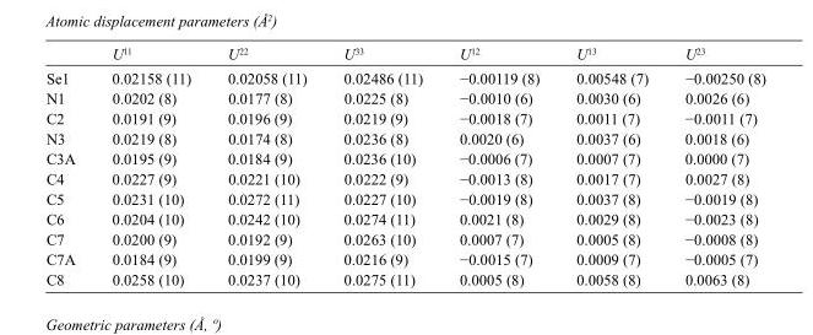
<table><thead><tr><td></td><td>U<sup>11</sup></td><td>U<sup>22</sup></td><td>U<sup>33</sup></td><td>U<sup>12</sup></td><td>U<sup>13</sup></td><td>U<sup>23</sup></td></tr></thead><tbody><tr><td>Se1</td><td>0.02158 (11)</td><td>0.02058 (11)</td><td>0.02486 (11)</td><td>−0.00119 (8)</td><td>0.00548 (7)</td><td>−0.00250 (8)</td></tr><tr><td>N1</td><td>0.0202 (8)</td><td>0.0177 (8)</td><td>0.0225 (8)</td><td>−0.0010 (6)</td><td>0.0030 (6)</td><td>0.0026 (6)</td></tr><tr><td>C2</td><td>0.0191 (9)</td><td>0.0196 (9)</td><td>0.0219 (9)</td><td>−0.0018 (7)</td><td>0.0011 (7)</td><td>−0.0011 (7)</td></tr><tr><td>N3</td><td>0.0219 (8)</td><td>0.0174 (8)</td><td>0.0236 (8)</td><td>0.0020 (6)</td><td>0.0037 (6)</td><td>0.0018 (6)</td></tr><tr><td>C3A</td><td>0.0195 (9)</td><td>0.0184 (9)</td><td>0.0236 (10)</td><td>−0.0006 (7)</td><td>0.0007 (7)</td><td>0.0000 (7)</td></tr><tr><td>C4</td><td>0.0227 (9)</td><td>0.0221 (10)</td><td>0.0222 (9)</td><td>−0.0013 (8)</td><td>0.0017 (7)</td><td>0.0027 (8)</td></tr><tr><td>C5</td><td>0.0231 (10)</td><td>0.0272 (11)</td><td>0.0227 (10)</td><td>−0.0019 (8)</td><td>0.0037 (8)</td><td>−0.0019 (8)</td></tr><tr><td>C6</td><td>0.0204 (10)</td><td>0.0242 (10)</td><td>0.0274 (11)</td><td>0.0021 (8)</td><td>0.0029 (8)</td><td>−0.0023 (8)</td></tr><tr><td>C7</td><td>0.0200 (9)</td><td>0.0192 (9)</td><td>0.0263 (10)</td><td>0.0007 (7)</td><td>0.0005 (8)</td><td>−0.0008 (8)</td></tr><tr><td>C7A</td><td>0.0184 (9)</td><td>0.0199 (9)</td><td>0.0216 (9)</td><td>−0.0015 (7)</td><td>0.0009 (7)</td><td>−0.0005 (7)</td></tr><tr><td>C8</td><td>0.0258 (10)</td><td>0.0237 (10)</td><td>0.0275 (11)</td><td>0.0005 (8)</td><td>0.0058 (8)</td><td>0.0063 (8)</td></tr></tbody></table>